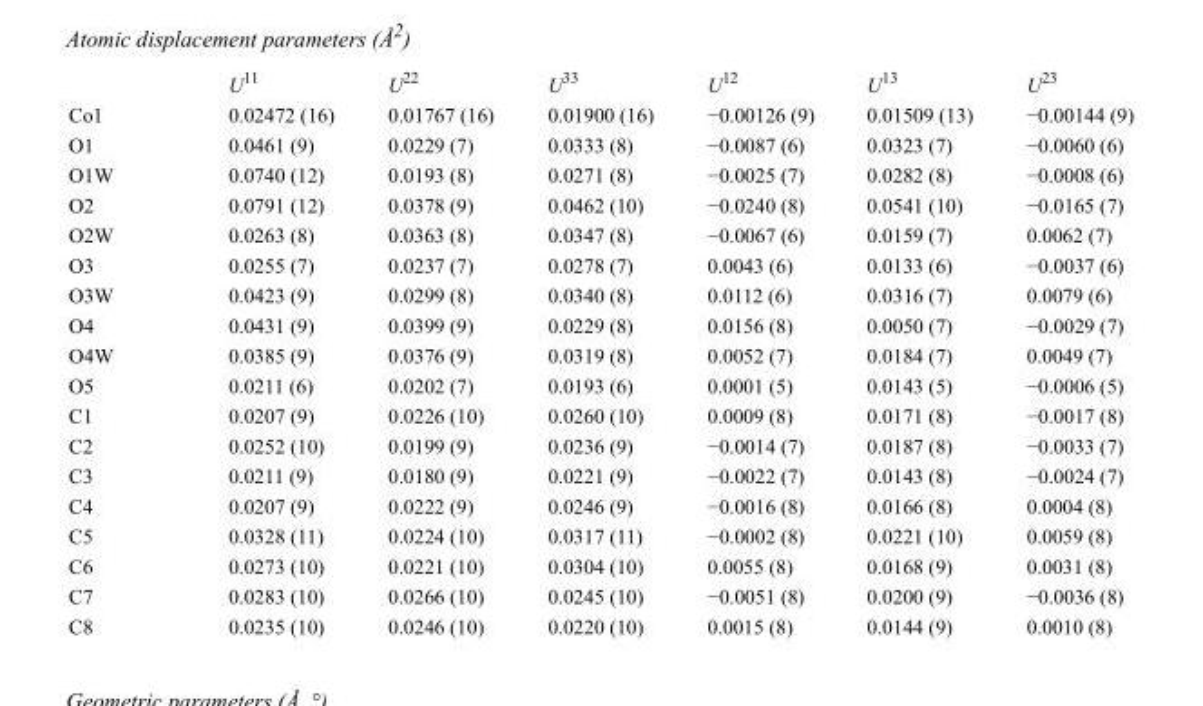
<table><thead><tr><td></td><td>U<sup>11</sup></td><td>U<sup>22</sup></td><td>U<sup>33</sup></td><td>U<sup>12</sup></td><td>U<sup>13</sup></td><td>U<sup>23</sup></td></tr></thead><tbody><tr><td>Co1</td><td>0.02472 (16)</td><td>0.01767 (16)</td><td>0.01900 (16)</td><td>−0.00126 (9)</td><td>0.01509 (13)</td><td>−0.00144 (9)</td></tr><tr><td>O1</td><td>0.0461 (9)</td><td>0.0229 (7)</td><td>0.0333 (8)</td><td>−0.0087 (6)</td><td>0.0323 (7)</td><td>−0.0060 (6)</td></tr><tr><td>O1W</td><td>0.0740 (12)</td><td>0.0193 (8)</td><td>0.0271 (8)</td><td>−0.0025 (7)</td><td>0.0282 (8)</td><td>−0.0008 (6)</td></tr><tr><td>O2</td><td>0.0791 (12)</td><td>0.0378 (9)</td><td>0.0462 (10)</td><td>−0.0240 (8)</td><td>0.0541 (10)</td><td>−0.0165 (7)</td></tr><tr><td>O2W</td><td>0.0263 (8)</td><td>0.0363 (8)</td><td>0.0347 (8)</td><td>−0.0067 (6)</td><td>0.0159 (7)</td><td>0.0062 (7)</td></tr><tr><td>O3</td><td>0.0255 (7)</td><td>0.0237 (7)</td><td>0.0278 (7)</td><td>0.0043 (6)</td><td>0.0133 (6)</td><td>−0.0037 (6)</td></tr><tr><td>O3W</td><td>0.0423 (9)</td><td>0.0299 (8)</td><td>0.0340 (8)</td><td>0.0112 (6)</td><td>0.0316 (7)</td><td>0.0079 (6)</td></tr><tr><td>O4</td><td>0.0431 (9)</td><td>0.0399 (9)</td><td>0.0229 (8)</td><td>0.0156 (8)</td><td>0.0050 (7)</td><td>−0.0029 (7)</td></tr><tr><td>O4W</td><td>0.0385 (9)</td><td>0.0376 (9)</td><td>0.0319 (8)</td><td>0.0052 (7)</td><td>0.0184 (7)</td><td>0.0049 (7)</td></tr><tr><td>O5</td><td>0.0211 (6)</td><td>0.0202 (7)</td><td>0.0193 (6)</td><td>0.0001 (5)</td><td>0.0143 (5)</td><td>−0.0006 (5)</td></tr><tr><td>C1</td><td>0.0207 (9)</td><td>0.0226 (10)</td><td>0.0260 (10)</td><td>0.0009 (8)</td><td>0.0171 (8)</td><td>−0.0017 (8)</td></tr><tr><td>C2</td><td>0.0252 (10)</td><td>0.0199 (9)</td><td>0.0236 (9)</td><td>−0.0014 (7)</td><td>0.0187 (8)</td><td>−0.0033 (7)</td></tr><tr><td>C3</td><td>0.0211 (9)</td><td>0.0180 (9)</td><td>0.0221 (9)</td><td>−0.0022 (7)</td><td>0.0143 (8)</td><td>−0.0024 (7)</td></tr><tr><td>C4</td><td>0.0207 (9)</td><td>0.0222 (9)</td><td>0.0246 (9)</td><td>−0.0016 (8)</td><td>0.0166 (8)</td><td>0.0004 (8)</td></tr><tr><td>C5</td><td>0.0328 (11)</td><td>0.0224 (10)</td><td>0.0317 (11)</td><td>−0.0002 (8)</td><td>0.0221 (10)</td><td>0.0059 (8)</td></tr><tr><td>C6</td><td>0.0273 (10)</td><td>0.0221 (10)</td><td>0.0304 (10)</td><td>0.0055 (8)</td><td>0.0168 (9)</td><td>0.0031 (8)</td></tr><tr><td>C7</td><td>0.0283 (10)</td><td>0.0266 (10)</td><td>0.0245 (10)</td><td>−0.0051 (8)</td><td>0.0200 (9)</td><td>−0.0036 (8)</td></tr><tr><td>C8</td><td>0.0235 (10)</td><td>0.0246 (10)</td><td>0.0220 (10)</td><td>0.0015 (8)</td><td>0.0144 (9)</td><td>0.0010 (8)</td></tr></tbody></table>